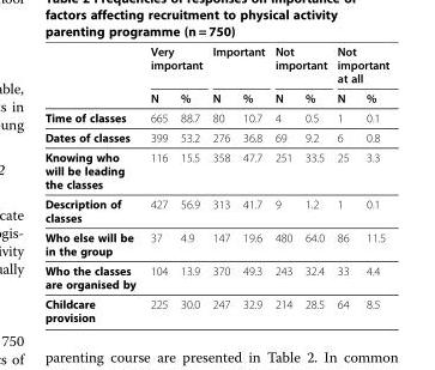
<table><thead><tr><td rowspan="2"></td><td colspan="2">Very important</td><td colspan="2">Important</td><td colspan="2">Not important</td><td colspan="2">Not important at all</td></tr><tr><td>N</td><td>%</td><td>N</td><td>%</td><td>N</td><td>%</td><td>N</td><td>%</td></tr></thead><tbody><tr><td>Time of classes</td><td>665</td><td>88.7</td><td>80</td><td>10.7</td><td>4</td><td>0.5</td><td>1</td><td>0.1</td></tr><tr><td>Dates of classes</td><td>399</td><td>53.2</td><td>276</td><td>36.8</td><td>69</td><td>9.2</td><td>6</td><td>0.8</td></tr><tr><td>Knowing who will be leading the classes</td><td>116</td><td>15.5</td><td>358</td><td>47.7</td><td>251</td><td>33.5</td><td>25</td><td>3.3</td></tr><tr><td>Description of classes</td><td>427</td><td>56.9</td><td>313</td><td>41.7</td><td>9</td><td>1.2</td><td>1</td><td>0.1</td></tr><tr><td>Who else will be in the group</td><td>37</td><td>4.9</td><td>147</td><td>19.6</td><td>480</td><td>64.0</td><td>86</td><td>11.5</td></tr><tr><td>Who the classes are organised by</td><td>104</td><td>13.9</td><td>370</td><td>49.3</td><td>243</td><td>32.4</td><td>33</td><td>4.4</td></tr><tr><td>Childcare provision</td><td>225</td><td>30.0</td><td>247</td><td>32.9</td><td>214</td><td>28.5</td><td>64</td><td>8.5</td></tr></tbody></table>